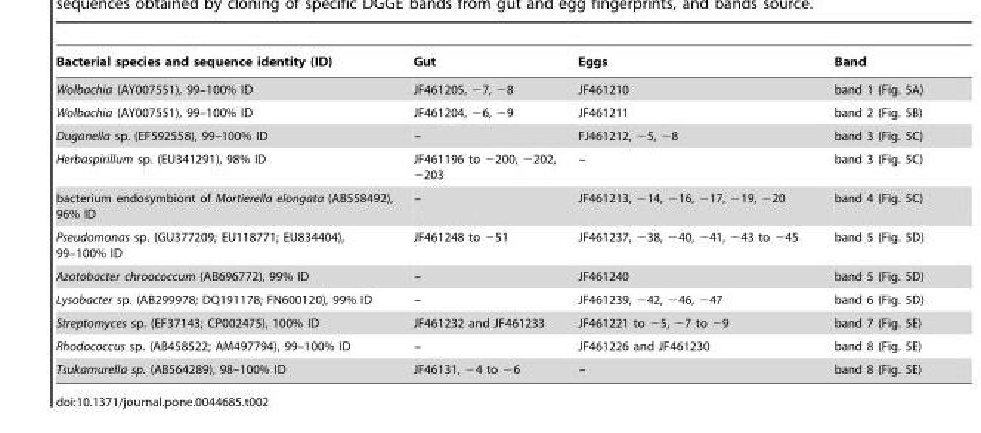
<table><thead><tr><td>Bacterial species and sequence identity (ID)</td><td>Gut</td><td>Eggs</td><td>Band</td></tr></thead><tbody><tr><td>Wolbachia (AY007551), 99–100% ID</td><td>JF461205, −7, −8</td><td>JF461210</td><td>band 1 (Fig. 5A)</td></tr><tr><td>Wolbachia (AY007551), 99–100% ID</td><td>JF461204, −6, −9</td><td>JF461211</td><td>band 2 (Fig. 5B)</td></tr><tr><td>Duganella sp. (EF592558), 99–100% ID</td><td>–</td><td>FJ461212, −5, −8</td><td>band 3 (Fig. 5C)</td></tr><tr><td>Herbaspirillum sp. (EU341291), 98% ID</td><td>JF461196 to −200, −202, −203</td><td>–</td><td>band 3 (Fig. 5C)</td></tr><tr><td>bacterium endosymbiont of Mortierella elongata (AB558492), 96% ID</td><td>–</td><td>JF461213, −14, −16, −17, −19, −20</td><td>band 4 (Fig. 5C)</td></tr><tr><td>Pseudomonas sp. (GU377209; EU118771; EU834404), 99–100% ID</td><td>JF461248 to −51</td><td>JF461237, −38, −40, −41, −43 to −45</td><td>band 5 (Fig. 5D)</td></tr><tr><td>Azotobacter chroococcum (AB696772), 99% ID</td><td>–</td><td>JF461240</td><td>band 5 (Fig. 5D)</td></tr><tr><td>Lysobacter sp. (AB299978; DQ191178; FN600120), 99% ID</td><td>–</td><td>JF461239, −42, −46, −47</td><td>band 6 (Fig. 5D)</td></tr><tr><td>Streptomyces sp. (EF37143; CP002475), 100% ID</td><td>JF461232 and JF461233</td><td>JF461221 to −5, −7 to −9</td><td>band 7 (Fig. 5E)</td></tr><tr><td>Rhodococcus sp. (AB458522; AM497794), 99–100% ID</td><td>–</td><td>JF461226 and JF461230</td><td>band 8 (Fig. 5E)</td></tr><tr><td>Tsukamurella sp. (AB564289), 98–100% ID</td><td>JF46131, −4 to −6</td><td>–</td><td>band 8 (Fig. 5E)</td></tr></tbody></table>